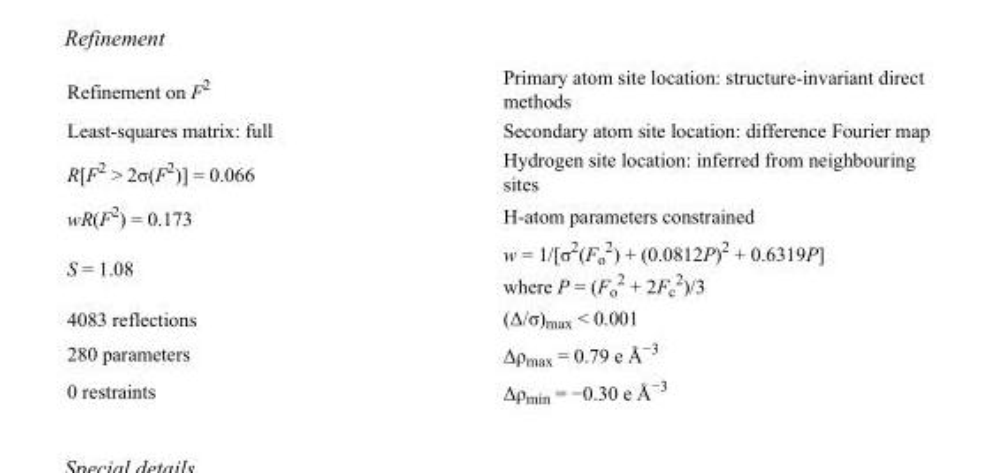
<table><tbody><tr><td>Refinement on F<sup>2</sup></td><td>Primary atom site location: structure-invariant direct methods</td></tr><tr><td>Least-squares matrix: full</td><td>Secondary atom site location: difference Fourier map</td></tr><tr><td>R[F<sup>2</sup> &gt; 2σ(F<sup>2</sup>)] = 0.066</td><td>Hydrogen site location: inferred from neighbouring sites</td></tr><tr><td>wR(F<sup>2</sup>) = 0.173</td><td>H-atom parameters constrained</td></tr><tr><td>S = 1.08</td><td>w = 1/[σ<sup>2</sup>(F<sub>o</sub> <sup>2</sup>) + (0.0812P)<sup>2</sup> + 0.6319P] where P = (F<sub>o</sub> <sup>2</sup> + 2F<sub>c</sub> <sup>2</sup>)/3</td></tr><tr><td>4083 reflections</td><td>(Δ/σ)<sub>max</sub> &lt; 0.001</td></tr><tr><td>280 parameters</td><td>Δρ<sub>max</sub> = 0.79 e Å<sup>−3</sup></td></tr><tr><td>0 restraints</td><td>Δρ<sub>min</sub> = −0.30 e Å<sup>−3</sup></td></tr></tbody></table>